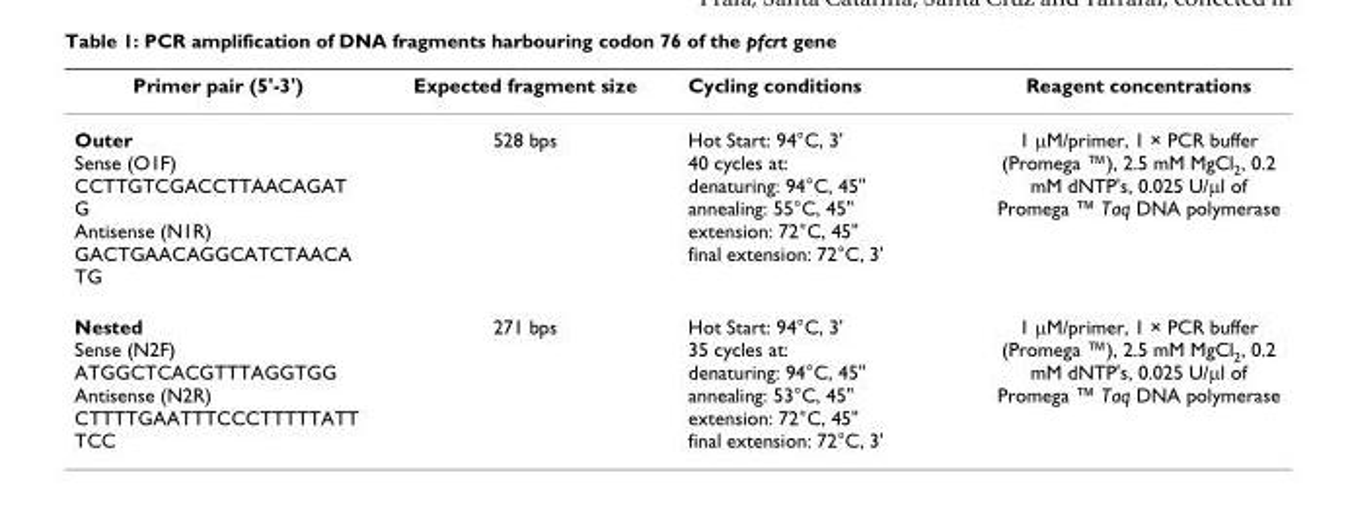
<table><thead><tr><td>Primer pair (5&#x27;-3&#x27;)</td><td>Expected fragment size</td><td>Cycling conditions</td><td>Reagent concentrations</td></tr></thead><tbody><tr><td>Outer Sense (O1F) CCTTGTCGACCTTAACAGAT G Antisense (N1R) GACTGAACAGGCATCTAACA TG</td><td>528 bps</td><td>Hot Start: 94°C, 3&#x27; 40 cycles at: denaturing: 94°C, 45&quot; annealing: 55°C, 45&quot; extension: 72°C, 45&quot; final extension: 72°C, 3&#x27;</td><td>1 µM/primer, 1 × PCR buffer (Promega ™), 2.5 mM MgCl<sub>2</sub>, 0.2 mM dNTP&#x27;s, 0.025 U/µl of Promega ™ Taq DNA polymerase</td></tr><tr><td>Nested Sense (N2F) ATGGCTCACGTTTAGGTGG Antisense (N2R) CTTTTGAATTTCCCTTTTTATT TCC</td><td>271 bps</td><td>Hot Start: 94°C, 3&#x27; 35 cycles at: denaturing: 94°C, 45&quot; annealing: 53°C, 45&quot; extension: 72°C, 45&quot; final extension: 72°C, 3&#x27;</td><td>1 µM/primer, 1 × PCR buffer (Promega ™), 2.5 mM MgCl<sub>2</sub>, 0.2 mM dNTP&#x27;s, 0.025 U/µl of Promega ™ Taq DNA polymerase</td></tr></tbody></table>